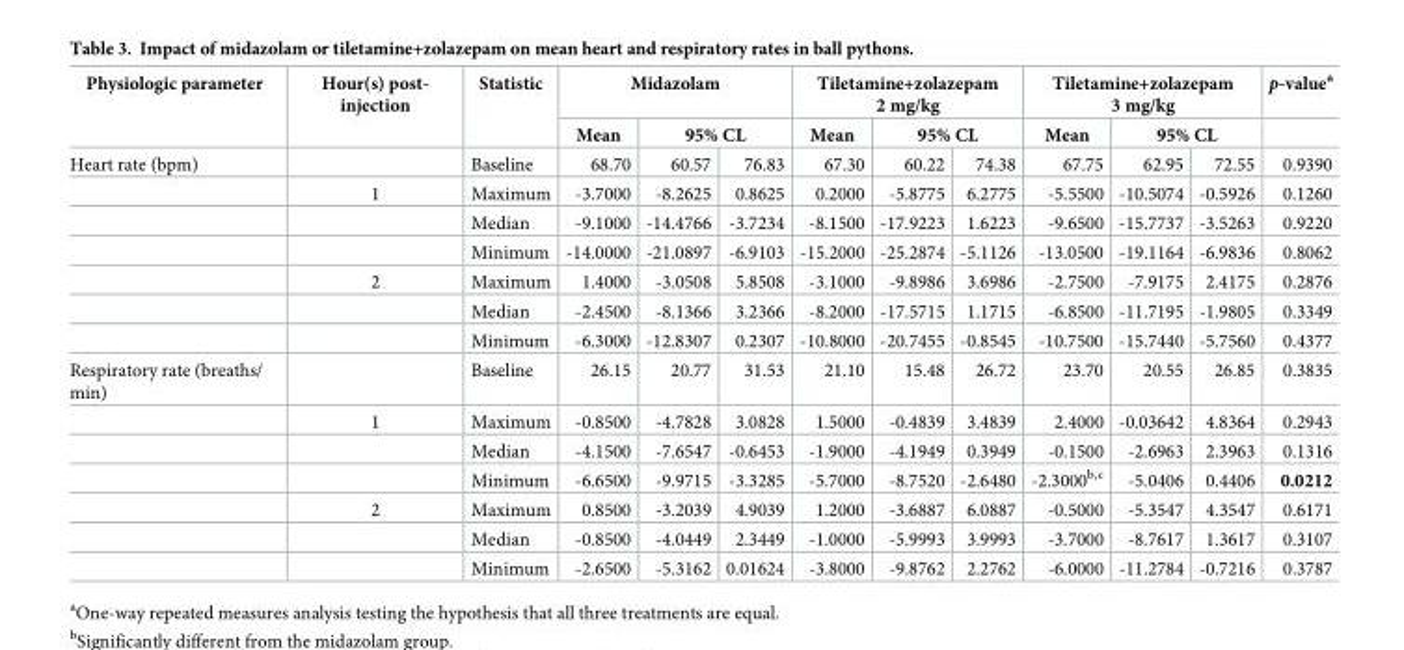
<table><thead><tr><td rowspan="3">Physiologic parameter Heart rate (bpm)</td><td rowspan="3">Hour(s) post- injection</td><td rowspan="3">Statistic Baseline</td><td colspan="3">Midazolam</td><td colspan="3">Tiletamine+zolazepam 2 mg/kg</td><td colspan="3">Tiletamine+zolazepam 3 mg/kg</td><td rowspan="3">p-value<sup>a</sup> 0.9390</td></tr><tr><td rowspan="2">Mean 68.70</td><td colspan="2">95% CL</td><td rowspan="2">Mean 67.30</td><td colspan="2">95% CL</td><td rowspan="2">Mean 67.75</td><td colspan="2">95% CL</td></tr><tr><td>60.57</td><td>76.83</td><td>60.22</td><td>74.38</td><td>62.95</td><td>72.55</td></tr></thead><tbody><tr><td></td><td>1</td><td>Maximum</td><td>-3.7000</td><td>-8.2625</td><td>0.8625</td><td>0.2000</td><td>-5.8775</td><td>6.2775</td><td>-5.5500</td><td>-10.5074</td><td>-0.5926</td><td>0.1260</td></tr><tr><td></td><td></td><td>Median</td><td>-9.1000</td><td>-14.4766</td><td>-3.7234</td><td>-8.1500</td><td>-17.9223</td><td>1.6223</td><td>-9.6500</td><td>-15.7737</td><td>-3.5263</td><td>0.9220</td></tr><tr><td></td><td></td><td>Minimum</td><td>-14.0000</td><td>-21.0897</td><td>-6.9103</td><td>-15.2000</td><td>-25.2874</td><td>-5.1126</td><td>-13.0500</td><td>-19.1164</td><td>-6.9836</td><td>0.8062</td></tr><tr><td></td><td>2</td><td>Maximum</td><td>1.4000</td><td>-3.0508</td><td>5.8508</td><td>-3.1000</td><td>-9.8986</td><td>3.6986</td><td>-2.7500</td><td>-7.9175</td><td>2.4175</td><td>0.2876</td></tr><tr><td></td><td></td><td>Median</td><td>-2.4500</td><td>-8.1366</td><td>3.2366</td><td>-8.2000</td><td>-17.5715</td><td>1.1715</td><td>-6.8500</td><td>-11.7195</td><td>-1.9805</td><td>0.3349</td></tr><tr><td></td><td></td><td>Minimum</td><td>-6.3000</td><td>-12.8307</td><td>0.2307</td><td>-10.8000</td><td>-20.7455</td><td>-0.8545</td><td>-10.7500</td><td>-15.7440</td><td>-5.7560</td><td>0.4377</td></tr><tr><td rowspan="7">Respiratory rate (breaths/ min)</td><td></td><td>Baseline</td><td>26.15</td><td>20.77</td><td>31.53</td><td>21.10</td><td>15.48</td><td>26.72</td><td>23.70</td><td>20.55</td><td>26.85</td><td>0.3835</td></tr><tr><td>1</td><td>Maximum</td><td>-0.8500</td><td>-4.7828</td><td>3.0828</td><td>1.5000</td><td>-0.4839</td><td>3.4839</td><td>2.4000</td><td>-0.03642</td><td>4.8364</td><td>0.2943</td></tr><tr><td></td><td>Median</td><td>-4.1500</td><td>-7.6547</td><td>-0.6453</td><td>-1.9000</td><td>-4.1949</td><td>0.3949</td><td>-0.1500</td><td>-2.6963</td><td>2.3963</td><td>0.1316</td></tr><tr><td></td><td>Minimum</td><td>-6.6500</td><td>-9.9715</td><td>-3.3285</td><td>-5.7000</td><td>-8.7520</td><td>-2.6480</td><td>-2.3000<sup>b,c</sup></td><td>-5.0406</td><td>0.4406</td><td>0.0212</td></tr><tr><td>2</td><td>Maximum</td><td>0.8500</td><td>-3.2039</td><td>4.9039</td><td>1.2000</td><td>-3.6887</td><td>6.0887</td><td>-0.5000</td><td>-5.3547</td><td>4.3547</td><td>0.6171</td></tr><tr><td></td><td>Median</td><td>-0.8500</td><td>-4.0449</td><td>2.3449</td><td>-1.0000</td><td>-5.9993</td><td>3.9993</td><td>-3.7000</td><td>-8.7617</td><td>1.3617</td><td>0.3107</td></tr><tr><td></td><td>Minimum</td><td>-2.6500</td><td>-5.3162</td><td>0.01624</td><td>-3.8000</td><td>-9.8762</td><td>2.2762</td><td>-6.0000</td><td>-11.2784</td><td>-0.7216</td><td>0.3787</td></tr></tbody></table>